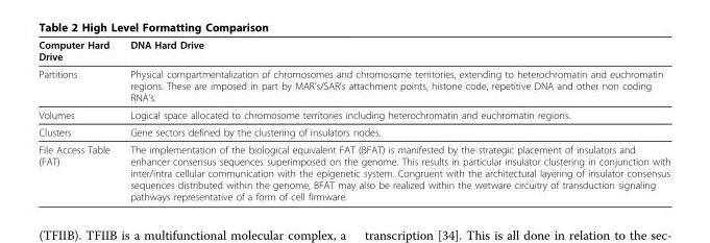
<table><thead><tr><td>Computer Hard Drive</td><td>DNA Hard Drive</td></tr></thead><tbody><tr><td>Partitions</td><td>Physical compartmentalization of chromosomes and chromosome territories, extending to heterochromatin and euchromatin regions. These are imposed in part by MAR’s/SAR’s attachment points, histone code, repetitive DNA and other non coding RNA’s.</td></tr><tr><td>Volumes</td><td>Logical space allocated to chromosome territories including heterochromatin and euchromatin regions.</td></tr><tr><td>Clusters</td><td>Gene sectors defined by the clustering of insulators nodes.</td></tr><tr><td>File Access Table (FAT)</td><td>The implementation of the biological equivalent FAT (BFAT) is manifested by the strategic placement of insulators and enhancer consensus sequences superimposed on the genome. This results in particular insulator clustering in conjunction with inter/intra cellular communication with the epigenetic system. Congruent with the architectural layering of insulator consensus sequences distributed within the genome, BFAT may also be realized within the wetware circuitry of transduction signaling pathways representative of a form of cell firmware.</td></tr></tbody></table>